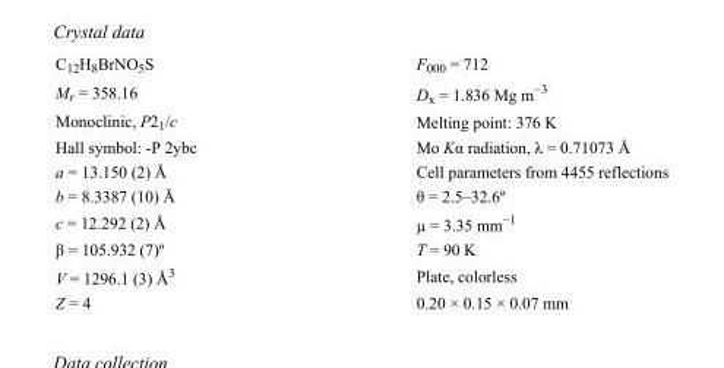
<table><tbody><tr><td>C<sub>12</sub>H<sub>8</sub>BrNO<sub>5</sub>S</td><td>F000 = 712</td></tr><tr><td>M<sub>r</sub> = 358.16</td><td>D<sub>x</sub> = 1.836 Mg m<sup>−3</sup></td></tr><tr><td>Monoclinic, P2<sub>1</sub>/c</td><td>Melting point: 376 K</td></tr><tr><td>Hall symbol: -P 2ybc</td><td>Mo Kα radiation, λ = 0.71073 Å</td></tr><tr><td>a = 13.150 (2) Å</td><td>Cell parameters from 4455 reflections</td></tr><tr><td>b = 8.3387 (10) Å</td><td>θ = 2.5–32.6º</td></tr><tr><td>c = 12.292 (2) Å</td><td>µ = 3.35 mm<sup>−1</sup></td></tr><tr><td>β = 105.932 (7)º</td><td>T = 90 K</td></tr><tr><td>V = 1296.1 (3) Å<sup>3</sup></td><td>Plate, colorless</td></tr><tr><td>Z = 4</td><td>0.20 × 0.15 × 0.07 mm</td></tr></tbody></table>